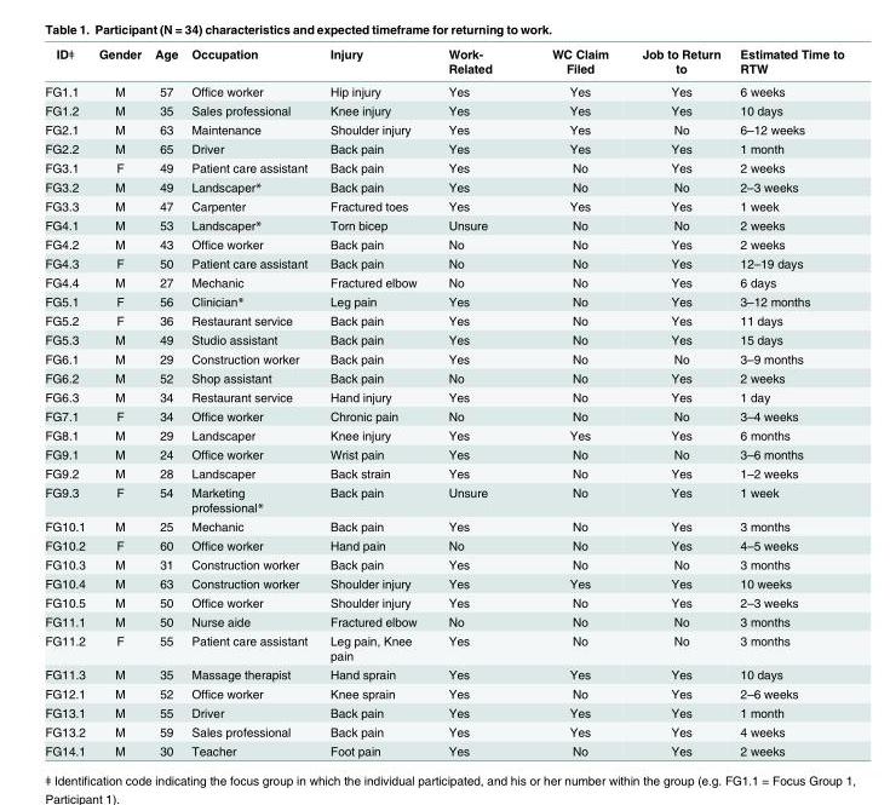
<table><thead><tr><td>IDǂ</td><td>Gender</td><td>Age</td><td>Occupation</td><td>Injury</td><td>Work- Related</td><td>WC Claim Filed</td><td>Job to Return to</td><td>Estimated Time to RTW</td></tr></thead><tbody><tr><td>FG1.1</td><td>M</td><td>57</td><td>Office worker</td><td>Hip injury</td><td>Yes</td><td>Yes</td><td>Yes</td><td>6 weeks</td></tr><tr><td>FG1.2</td><td>M</td><td>35</td><td>Sales professional</td><td>Knee injury</td><td>Yes</td><td>Yes</td><td>Yes</td><td>10 days</td></tr><tr><td>FG2.1</td><td>M</td><td>63</td><td>Maintenance</td><td>Shoulder injury</td><td>Yes</td><td>Yes</td><td>No</td><td>6–12 weeks</td></tr><tr><td>FG2.2</td><td>M</td><td>65</td><td>Driver</td><td>Back pain</td><td>Yes</td><td>Yes</td><td>Yes</td><td>1 month</td></tr><tr><td>FG3.1</td><td>F</td><td>49</td><td>Patient care assistant</td><td>Back pain</td><td>Yes</td><td>No</td><td>Yes</td><td>2 weeks</td></tr><tr><td>FG3.2</td><td>M</td><td>49</td><td>Landscaper*</td><td>Back pain</td><td>Yes</td><td>No</td><td>No</td><td>2–3 weeks</td></tr><tr><td>FG3.3</td><td>M</td><td>47</td><td>Carpenter</td><td>Fractured toes</td><td>Yes</td><td>Yes</td><td>Yes</td><td>1 week</td></tr><tr><td>FG4.1</td><td>M</td><td>53</td><td>Landscaper*</td><td>Torn bicep</td><td>Unsure</td><td>No</td><td>No</td><td>2 weeks</td></tr><tr><td>FG4.2</td><td>M</td><td>43</td><td>Office worker</td><td>Back pain</td><td>No</td><td>No</td><td>Yes</td><td>2 weeks</td></tr><tr><td>FG4.3</td><td>F</td><td>50</td><td>Patient care assistant</td><td>Back pain</td><td>No</td><td>No</td><td>Yes</td><td>12–19 days</td></tr><tr><td>FG4.4</td><td>M</td><td>27</td><td>Mechanic</td><td>Fractured elbow</td><td>No</td><td>No</td><td>Yes</td><td>6 days</td></tr><tr><td>FG5.1</td><td>F</td><td>56</td><td>Clinician*</td><td>Leg pain</td><td>Yes</td><td>No</td><td>Yes</td><td>3–12 months</td></tr><tr><td>FG5.2</td><td>F</td><td>36</td><td>Restaurant service</td><td>Back pain</td><td>Yes</td><td>No</td><td>Yes</td><td>11 days</td></tr><tr><td>FG5.3</td><td>M</td><td>49</td><td>Studio assistant</td><td>Back pain</td><td>Yes</td><td>No</td><td>Yes</td><td>15 days</td></tr><tr><td>FG6.1</td><td>M</td><td>29</td><td>Construction worker</td><td>Back pain</td><td>Yes</td><td>No</td><td>No</td><td>3–9 months</td></tr><tr><td>FG6.2</td><td>M</td><td>52</td><td>Shop assistant</td><td>Back pain</td><td>No</td><td>No</td><td>Yes</td><td>2 weeks</td></tr><tr><td>FG6.3</td><td>M</td><td>34</td><td>Restaurant service</td><td>Hand injury</td><td>Yes</td><td>No</td><td>Yes</td><td>1 day</td></tr><tr><td>FG7.1</td><td>F</td><td>34</td><td>Office worker</td><td>Chronic pain</td><td>No</td><td>No</td><td>No</td><td>3–4 weeks</td></tr><tr><td>FG8.1</td><td>M</td><td>29</td><td>Landscaper</td><td>Knee injury</td><td>Yes</td><td>Yes</td><td>Yes</td><td>6 months</td></tr><tr><td>FG9.1</td><td>M</td><td>24</td><td>Office worker</td><td>Wrist pain</td><td>Yes</td><td>No</td><td>No</td><td>3–6 months</td></tr><tr><td>FG9.2</td><td>M</td><td>28</td><td>Landscaper</td><td>Back strain</td><td>Yes</td><td>No</td><td>Yes</td><td>1–2 weeks</td></tr><tr><td>FG9.3</td><td>F</td><td>54</td><td>Marketing professional*</td><td>Back pain</td><td>Unsure</td><td>No</td><td>Yes</td><td>1 week</td></tr><tr><td>FG10.1</td><td>M</td><td>25</td><td>Mechanic</td><td>Back pain</td><td>Yes</td><td>No</td><td>Yes</td><td>3 months</td></tr><tr><td>FG10.2</td><td>F</td><td>60</td><td>Office worker</td><td>Hand pain</td><td>No</td><td>No</td><td>Yes</td><td>4–5 weeks</td></tr><tr><td>FG10.3</td><td>M</td><td>31</td><td>Construction worker</td><td>Back pain</td><td>Yes</td><td>No</td><td>No</td><td>3 months</td></tr><tr><td>FG10.4</td><td>M</td><td>63</td><td>Construction worker</td><td>Shoulder injury</td><td>Yes</td><td>Yes</td><td>Yes</td><td>10 weeks</td></tr><tr><td>FG10.5</td><td>M</td><td>50</td><td>Office worker</td><td>Shoulder injury</td><td>Yes</td><td>No</td><td>Yes</td><td>2–3 weeks</td></tr><tr><td>FG11.1</td><td>M</td><td>50</td><td>Nurse aide</td><td>Fractured elbow</td><td>No</td><td>No</td><td>No</td><td>3 months</td></tr><tr><td>FG11.2</td><td>F</td><td>55</td><td>Patient care assistant</td><td>Leg pain, Knee pain</td><td>Yes</td><td>No</td><td>No</td><td>3 months</td></tr><tr><td>FG11.3</td><td>M</td><td>35</td><td>Massage therapist</td><td>Hand sprain</td><td>Yes</td><td>Yes</td><td>Yes</td><td>10 days</td></tr><tr><td>FG12.1</td><td>M</td><td>52</td><td>Office worker</td><td>Knee sprain</td><td>Yes</td><td>No</td><td>Yes</td><td>2–6 weeks</td></tr><tr><td>FG13.1</td><td>M</td><td>55</td><td>Driver</td><td>Back pain</td><td>Yes</td><td>Yes</td><td>Yes</td><td>1 month</td></tr><tr><td>FG13.2</td><td>M</td><td>59</td><td>Sales professional</td><td>Back pain</td><td>Yes</td><td>Yes</td><td>Yes</td><td>4 weeks</td></tr><tr><td>FG14.1</td><td>M</td><td>30</td><td>Teacher</td><td>Foot pain</td><td>Yes</td><td>No</td><td>Yes</td><td>2 weeks</td></tr></tbody></table>